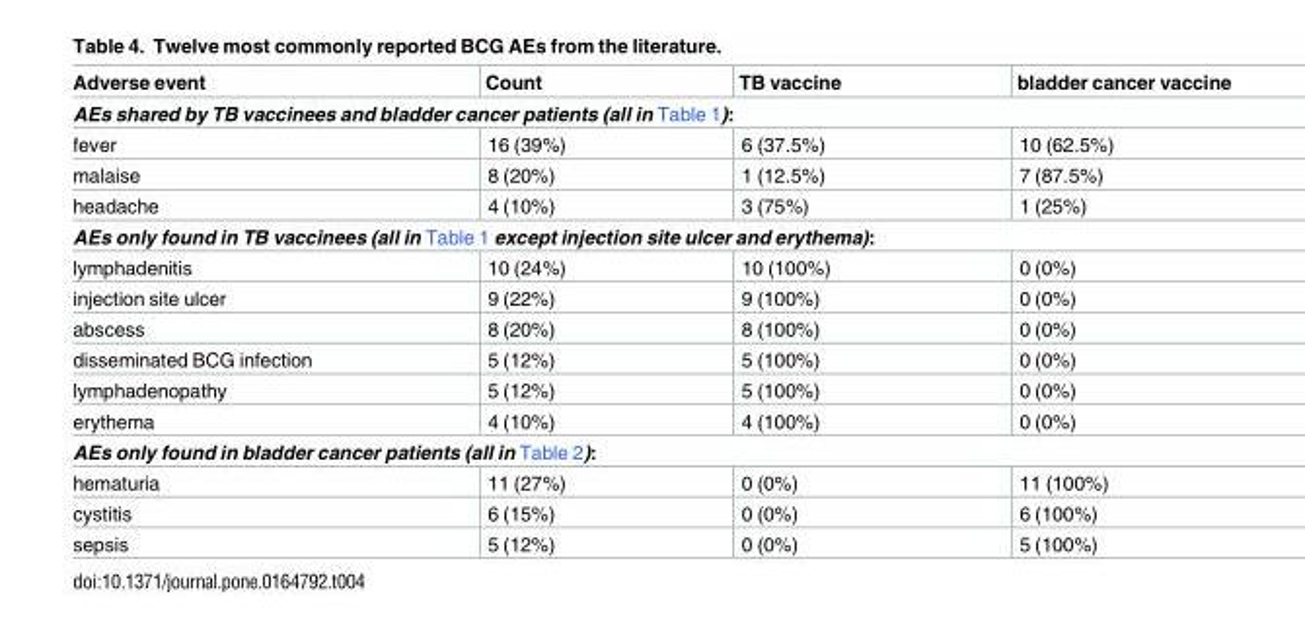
<table><thead><tr><td>Adverse event</td><td>Count</td><td>TB vaccine</td><td>bladder cancer vaccine</td></tr></thead><tbody><tr><td colspan="4">AEs shared by TB vaccinees and bladder cancer patients (all in Table 1):</td></tr><tr><td>fever</td><td>16 (39%)</td><td>6 (37.5%)</td><td>10 (62.5%)</td></tr><tr><td>malaise</td><td>8 (20%)</td><td>1 (12.5%)</td><td>7 (87.5%)</td></tr><tr><td>headache</td><td>4 (10%)</td><td>3 (75%)</td><td>1 (25%)</td></tr><tr><td colspan="4">AEs only found in TB vaccinees (all in Table 1 except injection site ulcer and erythema):</td></tr><tr><td>lymphadenitis</td><td>10 (24%)</td><td>10 (100%)</td><td>0 (0%)</td></tr><tr><td>injection site ulcer</td><td>9 (22%)</td><td>9 (100%)</td><td>0 (0%)</td></tr><tr><td>abscess</td><td>8 (20%)</td><td>8 (100%)</td><td>0 (0%)</td></tr><tr><td>disseminated BCG infection</td><td>5 (12%)</td><td>5 (100%)</td><td>0 (0%)</td></tr><tr><td>lymphadenopathy</td><td>5 (12%)</td><td>5 (100%)</td><td>0 (0%)</td></tr><tr><td>erythema</td><td>4 (10%)</td><td>4 (100%)</td><td>0 (0%)</td></tr><tr><td colspan="4">AEs only found in bladder cancer patients (all in Table 2):</td></tr><tr><td>hematuria</td><td>11 (27%)</td><td>0 (0%)</td><td>11 (100%)</td></tr><tr><td>cystitis</td><td>6 (15%)</td><td>0 (0%)</td><td>6 (100%)</td></tr><tr><td>sepsis</td><td>5 (12%)</td><td>0 (0%)</td><td>5 (100%)</td></tr></tbody></table>